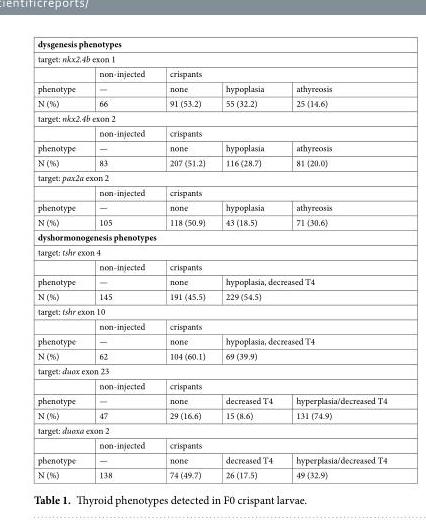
<table><tbody><tr><td colspan="5">dysgenesis phenotypes</td></tr><tr><td colspan="5">target: nkx2.4b exon 1</td></tr><tr><td></td><td>non-injected</td><td colspan="3">crispants</td></tr><tr><td>phenotype</td><td>—</td><td>none</td><td>hypoplasia</td><td>athyreosis</td></tr><tr><td>N (%)</td><td>66</td><td>91 (53.2)</td><td>55 (32.2)</td><td>25 (14.6)</td></tr><tr><td colspan="5">target: nkx2.4b exon 2</td></tr><tr><td></td><td>non-injected</td><td colspan="3">crispants</td></tr><tr><td>phenotype</td><td>—</td><td>none</td><td>hypoplasia</td><td>athyreosis</td></tr><tr><td>N (%)</td><td>83</td><td>207 (51.2)</td><td>116 (28.7)</td><td>81 (20.0)</td></tr><tr><td colspan="5">target: pax2a exon 2</td></tr><tr><td></td><td>non-injected</td><td colspan="3">crispants</td></tr><tr><td>phenotype</td><td>—</td><td>none</td><td>hypoplasia</td><td>athyreosis</td></tr><tr><td>N (%)</td><td>105</td><td>118 (50.9)</td><td>43 (18.5)</td><td>71 (30.6)</td></tr><tr><td colspan="5">dyshormonogenesis phenotypes</td></tr><tr><td colspan="5">target: tshr exon 4</td></tr><tr><td></td><td>non-injected</td><td colspan="3">crispants</td></tr><tr><td>phenotype</td><td>—</td><td>none</td><td colspan="2">hypoplasia, decreased T4</td></tr><tr><td>N (%)</td><td>145</td><td>191 (45.5)</td><td colspan="2">229 (54.5)</td></tr><tr><td colspan="5">target: tshr exon 10</td></tr><tr><td></td><td>non-injected</td><td colspan="3">crispants</td></tr><tr><td>phenotype</td><td>—</td><td>none</td><td colspan="2">hypoplasia, decreased T4</td></tr><tr><td>N (%)</td><td>62</td><td>104 (60.1)</td><td colspan="2">69 (39.9)</td></tr><tr><td colspan="5">target: duox exon 23</td></tr><tr><td></td><td>non-injected</td><td colspan="3">crispants</td></tr><tr><td>phenotype</td><td>—</td><td>none</td><td>decreased T4</td><td>hyperplasia/decreased T4</td></tr><tr><td>N (%)</td><td>47</td><td>29 (16.6)</td><td>15 (8.6)</td><td>131 (74.9)</td></tr><tr><td colspan="5">target: duoxa exon 2</td></tr><tr><td></td><td>non-injected</td><td colspan="3">crispants</td></tr><tr><td>phenotype</td><td>—</td><td>none</td><td>decreased T4</td><td>hyperplasia/decreased T4</td></tr><tr><td>N (%)</td><td>138</td><td>74 (49.7)</td><td>26 (17.5)</td><td>49 (32.9)</td></tr></tbody></table>